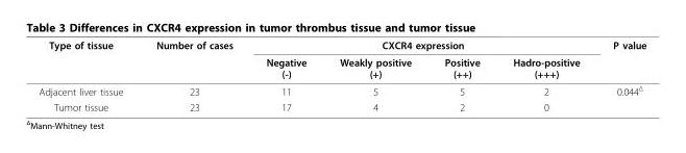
<table><thead><tr><td rowspan="2">Type of tissue</td><td rowspan="2">Number of cases</td><td colspan="4">CXCR4 expression</td><td rowspan="2">P value</td></tr><tr><td>Negative (-)</td><td>Weakly positive (+)</td><td>Positive (++)</td><td>Hadro-positive (+++)</td></tr></thead><tbody><tr><td>Adjacent liver tissue</td><td>23</td><td>11</td><td>5</td><td>5</td><td>2</td><td>0.044<sup>Δ</sup></td></tr><tr><td>Tumor tissue</td><td>23</td><td>17</td><td>4</td><td>2</td><td>0</td><td></td></tr></tbody></table>